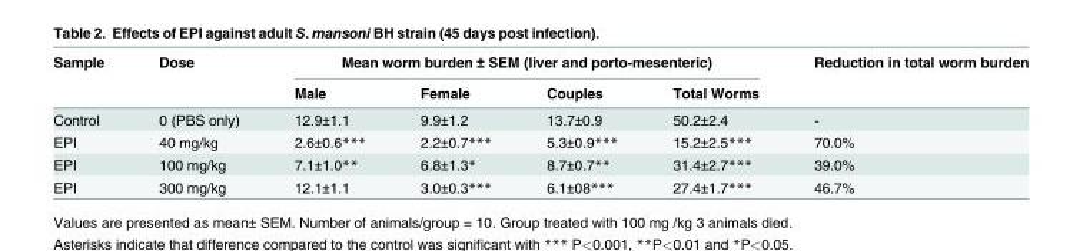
<table><thead><tr><td rowspan="2">Sample</td><td rowspan="2">Dose</td><td colspan="4">Mean worm burden ± SEM (liver and porto-mesenteric)</td><td rowspan="2">Reduction in total worm burden</td></tr><tr><td>Male</td><td>Female</td><td>Couples</td><td>Total Worms</td></tr></thead><tbody><tr><td>Control</td><td>0 (PBS only)</td><td>12.9±1.1</td><td>9.9±1.2</td><td>13.7±0.9</td><td>50.2±2.4</td><td>-</td></tr><tr><td>EPI</td><td>40 mg/kg</td><td>2.6±0.6***</td><td>2.2±0.7***</td><td>5.3±0.9***</td><td>15.2±2.5***</td><td>70.0%</td></tr><tr><td>EPI</td><td>100 mg/kg</td><td>7.1±1.0**</td><td>6.8±1.3*</td><td>8.7±0.7**</td><td>31.4±2.7***</td><td>39.0%</td></tr><tr><td>EPI</td><td>300 mg/kg</td><td>12.1±1.1</td><td>3.0±0.3***</td><td>6.1±08***</td><td>27.4±1.7***</td><td>46.7%</td></tr></tbody></table>